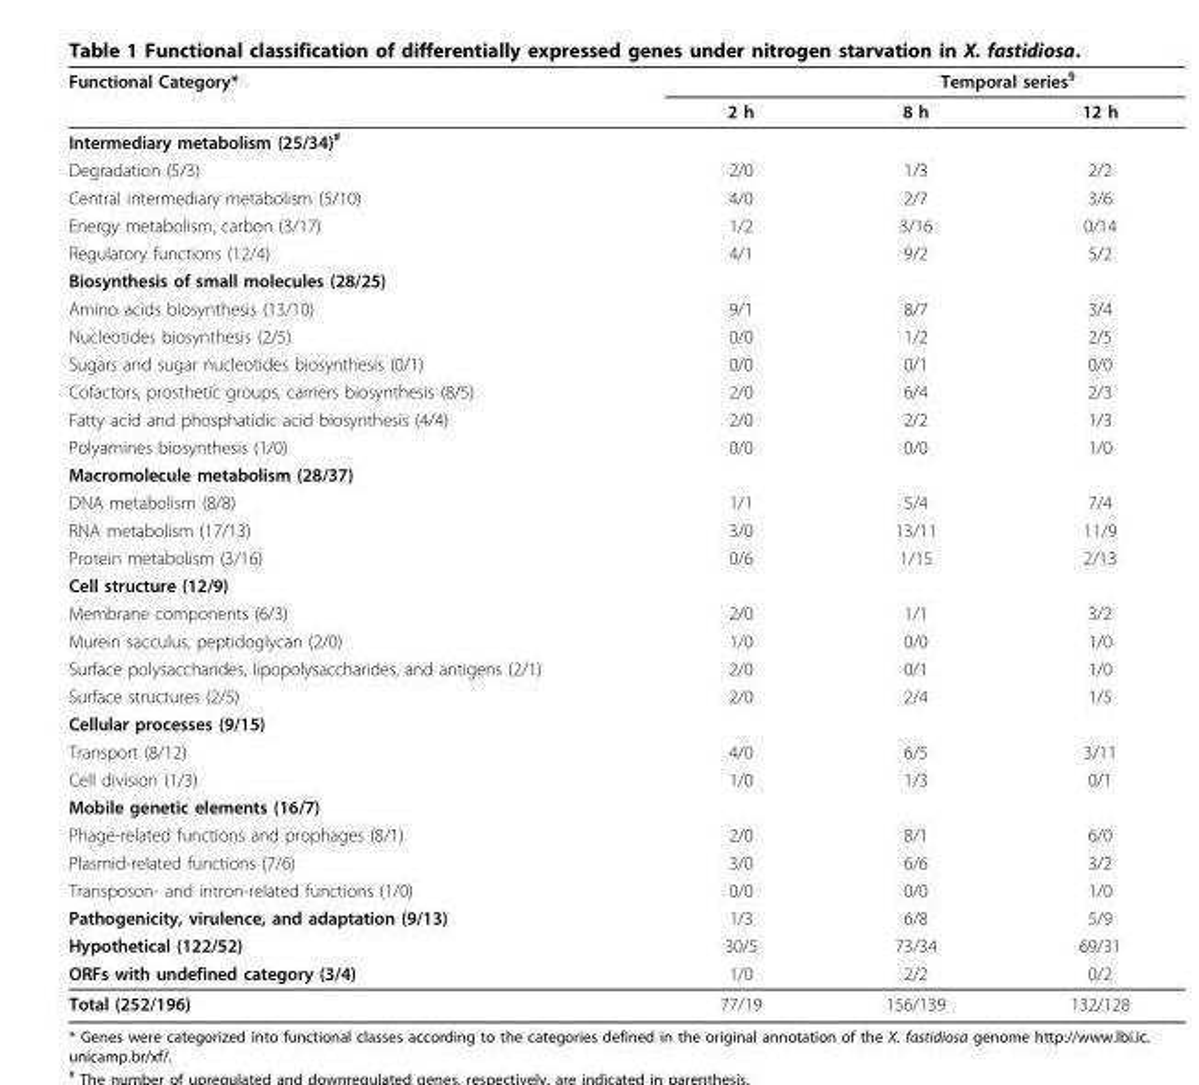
<table><thead><tr><td rowspan="2">Functional Category*</td><td rowspan="2">2 h</td><td colspan="2">Temporal series<sup>§</sup></td></tr><tr><td>8 h</td><td>12 h</td></tr></thead><tbody><tr><td colspan="4">Intermediary metabolism (25/34)<sup>#</sup></td></tr><tr><td>Degradation (5/3)</td><td>2/0</td><td>1/3</td><td>2/2</td></tr><tr><td>Central intermediary metabolism (5/10)</td><td>4/0</td><td>2/7</td><td>3/6</td></tr><tr><td>Energy metabolism, carbon (3/17)</td><td>1/2</td><td>3/16</td><td>0/14</td></tr><tr><td>Regulatory functions (12/4)</td><td>4/1</td><td>9/2</td><td>5/2</td></tr><tr><td colspan="4">Biosynthesis of small molecules (28/25)</td></tr><tr><td>Amino acids biosynthesis (13/10)</td><td>9/1</td><td>8/7</td><td>3/4</td></tr><tr><td>Nucleotides biosynthesis (2/5)</td><td>0/0</td><td>1/2</td><td>2/5</td></tr><tr><td>Sugars and sugar nucleotides biosynthesis (0/1)</td><td>0/0</td><td>0/1</td><td>0/0</td></tr><tr><td>Cofactors, prosthetic groups, carriers biosynthesis (8/5)</td><td>2/0</td><td>6/4</td><td>2/3</td></tr><tr><td>Fatty acid and phosphatidic acid biosynthesis (4/4)</td><td>2/0</td><td>2/2</td><td>1/3</td></tr><tr><td>Polyamines biosynthesis (1/0)</td><td>0/0</td><td>0/0</td><td>1/0</td></tr><tr><td colspan="4">Macromolecule metabolism (28/37)</td></tr><tr><td>DNA metabolism (8/8)</td><td>1/1</td><td>5/4</td><td>7/4</td></tr><tr><td>RNA metabolism (17/13)</td><td>3/0</td><td>13/11</td><td>11/9</td></tr><tr><td>Protein metabolism (3/16)</td><td>0/6</td><td>1/15</td><td>2/13</td></tr><tr><td colspan="4">Cell structure (12/9)</td></tr><tr><td>Membrane components (6/3)</td><td>2/0</td><td>1/1</td><td>3/2</td></tr><tr><td>Murein sacculus, peptidoglycan (2/0)</td><td>1/0</td><td>0/0</td><td>1/0</td></tr><tr><td>Surface polysaccharides, lipopolysaccharides, and antigens (2/1)</td><td>2/0</td><td>0/1</td><td>1/0</td></tr><tr><td>Surface structures (2/5)</td><td>2/0</td><td>2/4</td><td>1/5</td></tr><tr><td colspan="4">Cellular processes (9/15)</td></tr><tr><td>Transport (8/12)</td><td>4/0</td><td>6/5</td><td>3/11</td></tr><tr><td>Cell division (1/3)</td><td>1/0</td><td>1/3</td><td>0/1</td></tr><tr><td colspan="4">Mobile genetic elements (16/7)</td></tr><tr><td>Phage-related functions and prophages (8/1)</td><td>2/0</td><td>8/1</td><td>6/0</td></tr><tr><td>Plasmid-related functions (7/6)</td><td>3/0</td><td>6/6</td><td>3/2</td></tr><tr><td>Transposon- and intron-related functions (1/0)</td><td>0/0</td><td>0/0</td><td>1/0</td></tr><tr><td>Pathogenicity, virulence, and adaptation (9/13)</td><td>1/3</td><td>6/8</td><td>5/9</td></tr><tr><td>Hypothetical (122/52)</td><td>30/5</td><td>73/34</td><td>69/31</td></tr><tr><td>ORFs with undefined category (3/4)</td><td>1/0</td><td>2/2</td><td>0/2</td></tr><tr><td>Total (252/196)</td><td>77/19</td><td>156/139</td><td>132/128</td></tr></tbody></table>